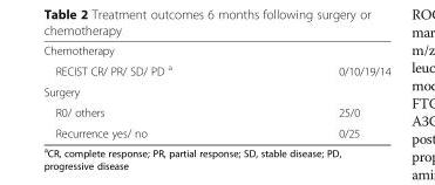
<table><tbody><tr><td colspan="2">Chemotherapy</td></tr><tr><td>RECIST CR/ PR/ SD/ PD <sup>a</sup></td><td>0/10/19/14</td></tr><tr><td colspan="2">Surgery</td></tr><tr><td>R0/ others</td><td>25/0</td></tr><tr><td>Recurrence yes/ no</td><td>0/25</td></tr></tbody></table>